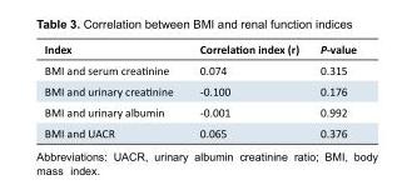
<table><tbody><tr><td>Index</td><td>Correlation index (r)</td><td>P-value</td></tr><tr><td>BMI and serum creatinine</td><td>0.074</td><td>0.315</td></tr><tr><td>BMI and urinary creatinine</td><td>-0.100</td><td>0.176</td></tr><tr><td>BMI and urinary albumin</td><td>-0.001</td><td>0.992</td></tr><tr><td>BMI and UACR</td><td>0.065</td><td>0.376</td></tr></tbody></table>